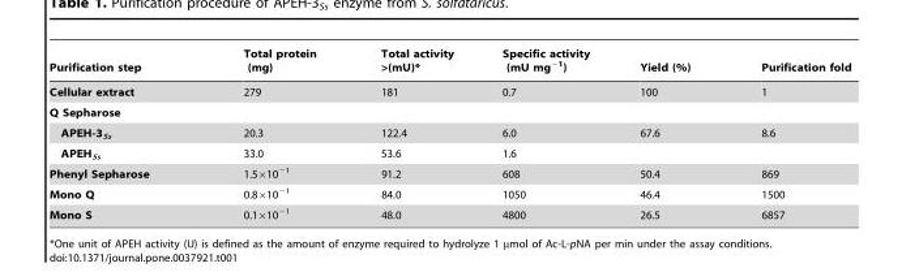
<table><thead><tr><td>Purification step</td><td>Total protein (mg)</td><td>Total activity &gt;(mU)*</td><td>Specific activity (mU mg<sup>−1</sup>)</td><td>Yield (%)</td><td>Purification fold</td></tr></thead><tbody><tr><td>Cellular extract</td><td>279</td><td>181</td><td>0.7</td><td>100</td><td>1</td></tr><tr><td colspan="6">Q Sepharose</td></tr><tr><td>APEH-3<sub>Ss</sub></td><td>20.3</td><td>122.4</td><td>6.0</td><td>67.6</td><td>8.6</td></tr><tr><td>APEH<sub>Ss</sub></td><td>33.0</td><td>53.6</td><td>1.6</td><td></td><td></td></tr><tr><td>Phenyl Sepharose</td><td>1.5×10<sup>−1</sup></td><td>91.2</td><td>608</td><td>50.4</td><td>869</td></tr><tr><td>Mono Q</td><td>0.8×10<sup>−1</sup></td><td>84.0</td><td>1050</td><td>46.4</td><td>1500</td></tr><tr><td>Mono S</td><td>0.1×10<sup>−1</sup></td><td>48.0</td><td>4800</td><td>26.5</td><td>6857</td></tr></tbody></table>